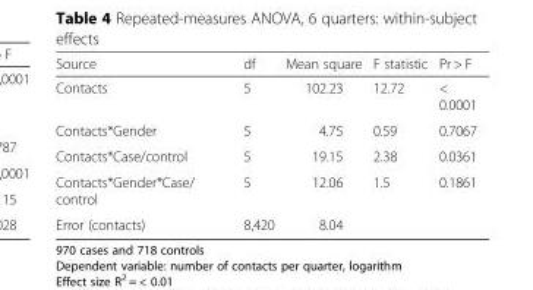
<table><thead><tr><td>Source</td><td>df</td><td>Mean square</td><td>F statistic</td><td>Pr &gt; F</td></tr></thead><tbody><tr><td>Contacts</td><td>5</td><td>102.23</td><td>12.72</td><td>&lt; 0.0001</td></tr><tr><td>Contacts*Gender</td><td>5</td><td>4.75</td><td>0.59</td><td>0.7067</td></tr><tr><td>Contacts*Case/control</td><td>5</td><td>19.15</td><td>2.38</td><td>0.0361</td></tr><tr><td>Contacts*Gender*Case/ control</td><td>5</td><td>12.06</td><td>1.5</td><td>0.1861</td></tr><tr><td>Error (contacts)</td><td>8,420</td><td>8.04</td><td></td><td></td></tr></tbody></table>